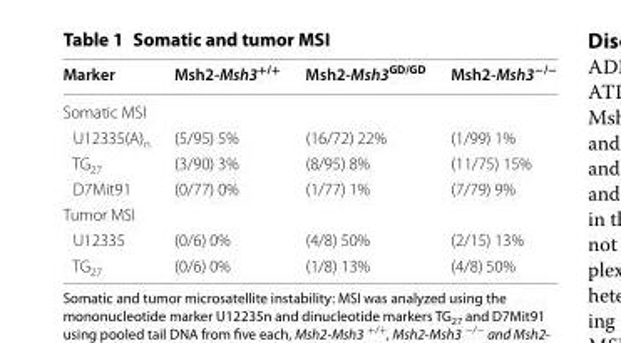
<table><thead><tr><td>Marker</td><td>Msh2‑Msh3<sup>+/+</sup></td><td>Msh2‑Msh3<sup>GD/GD</sup></td><td>Msh2‑Msh3<sup>−/−</sup></td></tr></thead><tbody><tr><td colspan="4">Somatic MSI</td></tr><tr><td>U12335(A)<sub>n</sub></td><td>(5/95) 5%</td><td>(16/72) 22%</td><td>(1/99) 1%</td></tr><tr><td>TG<sub>27</sub></td><td>(3/90) 3%</td><td>(8/95) 8%</td><td>(11/75) 15%</td></tr><tr><td>D7Mit91</td><td>(0/77) 0%</td><td>(1/77) 1%</td><td>(7/79) 9%</td></tr><tr><td colspan="4">Tumor MSI</td></tr><tr><td>U12335</td><td>(0/6) 0%</td><td>(4/8) 50%</td><td>(2/15) 13%</td></tr><tr><td>TG<sub>27</sub></td><td>(0/6) 0%</td><td>(1/8) 13%</td><td>(4/8) 50%</td></tr></tbody></table>